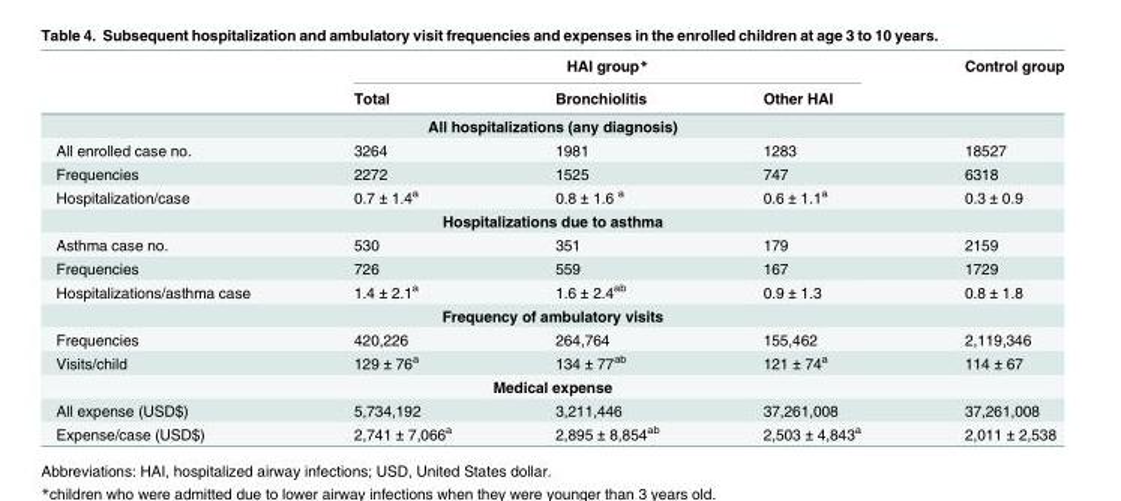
<table><thead><tr><td rowspan="2"></td><td colspan="3">HAI group*</td><td rowspan="2">Control group</td></tr><tr><td>Total</td><td>Bronchiolitis</td><td>Other HAI</td></tr></thead><tbody><tr><td colspan="5">All hospitalizations (any diagnosis)</td></tr><tr><td>All enrolled case no.</td><td>3264</td><td>1981</td><td>1283</td><td>18527</td></tr><tr><td>Frequencies</td><td>2272</td><td>1525</td><td>747</td><td>6318</td></tr><tr><td>Hospitalization/case</td><td>0.7 ± 1.4<sup>a</sup></td><td>0.8 ± 1.6 <sup>a</sup></td><td>0.6 ± 1.1<sup>a</sup></td><td>0.3 ± 0.9</td></tr><tr><td colspan="5">Hospitalizations due to asthma</td></tr><tr><td>Asthma case no.</td><td>530</td><td>351</td><td>179</td><td>2159</td></tr><tr><td>Frequencies</td><td>726</td><td>559</td><td>167</td><td>1729</td></tr><tr><td>Hospitalizations/asthma case</td><td>1.4 ± 2.1<sup>a</sup></td><td>1.6 ± 2.4<sup>ab</sup></td><td>0.9 ± 1.3</td><td>0.8 ± 1.8</td></tr><tr><td colspan="5">Frequency of ambulatory visits</td></tr><tr><td>Frequencies</td><td>420,226</td><td>264,764</td><td>155,462</td><td>2,119,346</td></tr><tr><td>Visits/child</td><td>129 ± 76<sup>a</sup></td><td>134 ± 77<sup>ab</sup></td><td>121 ± 74<sup>a</sup></td><td>114 ± 67</td></tr><tr><td colspan="5">Medical expense</td></tr><tr><td>All expense (USD$)</td><td>5,734,192</td><td>3,211,446</td><td>37,261,008</td><td>37,261,008</td></tr><tr><td>Expense/case (USD$)</td><td>2,741 ± 7,066<sup>a</sup></td><td>2,895 ± 8,854<sup>ab</sup></td><td>2,503 ± 4,843<sup>a</sup></td><td>2,011 ± 2,538</td></tr></tbody></table>